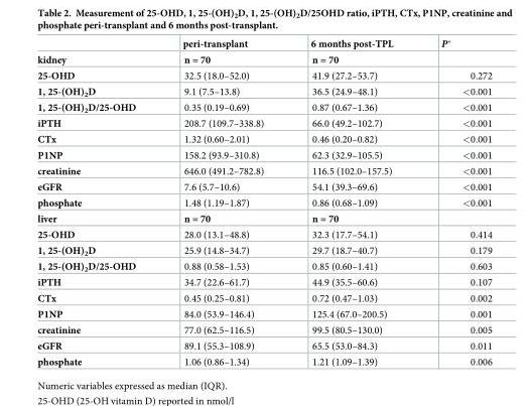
<table><thead><tr><td></td><td>peri-transplant</td><td>6 months post-TPL</td><td>P*</td></tr></thead><tbody><tr><td>kidney</td><td>n = 70</td><td>n = 70</td><td></td></tr><tr><td>25-OHD</td><td>32.5 (18.0–52.0)</td><td>41.9 (27.2–53.7)</td><td>0.272</td></tr><tr><td>1, 25-(OH)<sub>2</sub>D</td><td>9.1 (7.5–13.8)</td><td>36.5 (24.9–48.1)</td><td>&lt;0.001</td></tr><tr><td>1, 25-(OH)<sub>2</sub>D/25-OHD</td><td>0.35 (0.19–0.69)</td><td>0.87 (0.67–1.36)</td><td>&lt;0.001</td></tr><tr><td>iPTH</td><td>208.7 (109.7–338.8)</td><td>66.0 (49.2–102.7)</td><td>&lt;0.001</td></tr><tr><td>CTx</td><td>1.32 (0.60–2.01)</td><td>0.46 (0.20–0.82)</td><td>&lt;0.001</td></tr><tr><td>P1NP</td><td>158.2 (93.9–310.8)</td><td>62.3 (32.9–105.5)</td><td>&lt;0.001</td></tr><tr><td>creatinine</td><td>646.0 (491.2–782.8)</td><td>116.5 (102.0–157.5)</td><td>&lt;0.001</td></tr><tr><td>eGFR</td><td>7.6 (5.7–10.6)</td><td>54.1 (39.3–69.6)</td><td>&lt;0.001</td></tr><tr><td>phosphate</td><td>1.48 (1.19–1.87)</td><td>0.86 (0.68–1.09)</td><td>&lt;0.001</td></tr><tr><td>liver</td><td>n = 70</td><td>n = 70</td><td></td></tr><tr><td>25-OHD</td><td>28.0 (13.1–48.8)</td><td>32.3 (17.7–54.1)</td><td>0.414</td></tr><tr><td>1, 25-(OH)<sub>2</sub>D</td><td>25.9 (14.8–34.7)</td><td>29.7 (18.7–40.7)</td><td>0.179</td></tr><tr><td>1, 25-(OH)<sub>2</sub>D/25-OHD</td><td>0.88 (0.58–1.53)</td><td>0.85 (0.60–1.41)</td><td>0.603</td></tr><tr><td>iPTH</td><td>34.7 (22.6–61.7)</td><td>44.9 (35.5–60.6)</td><td>0.107</td></tr><tr><td>CTx</td><td>0.45 (0.25–0.81)</td><td>0.72 (0.47–1.03)</td><td>0.002</td></tr><tr><td>P1NP</td><td>84.0 (53.9–146.4)</td><td>125.4 (67.0–200.5)</td><td>0.001</td></tr><tr><td>creatinine</td><td>77.0 (62.5–116.5)</td><td>99.5 (80.5–130.0)</td><td>0.005</td></tr><tr><td>eGFR</td><td>89.1 (55.3–108.9)</td><td>65.5 (53.0–84.3)</td><td>0.011</td></tr><tr><td>phosphate</td><td>1.06 (0.86–1.34)</td><td>1.21 (1.09–1.39)</td><td>0.006</td></tr></tbody></table>